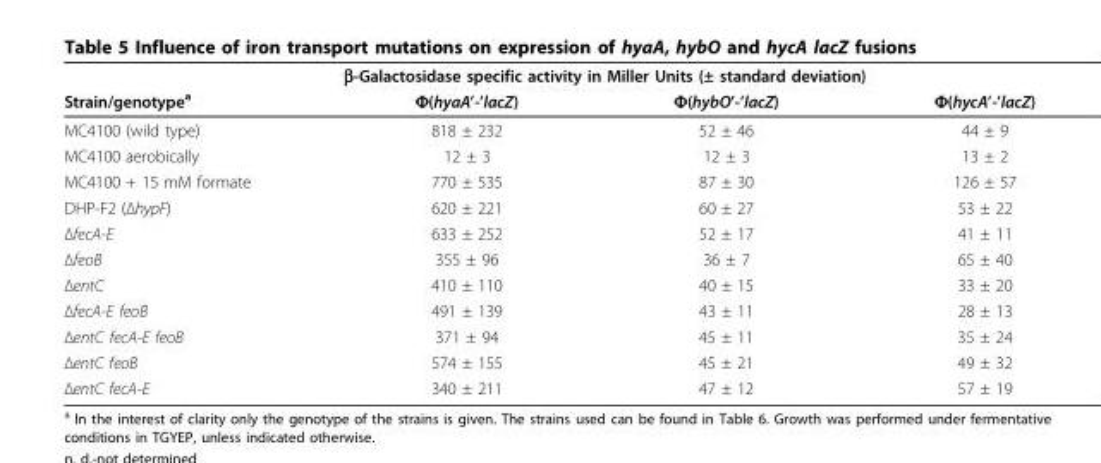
<table><thead><tr><td rowspan="2">Strain/genotype<sup>a</sup></td><td colspan="3">β-Galactosidase specific activity in Miller Units (± standard deviation)</td></tr><tr><td>Φ(hyaA’-’lacZ)</td><td>Φ(hybO’-’lacZ)</td><td>Φ(hycA’-’lacZ)</td></tr></thead><tbody><tr><td>MC4100 (wild type)</td><td>818 ± 232</td><td>52 ± 46</td><td>44 ± 9</td></tr><tr><td>MC4100 aerobically</td><td>12 ± 3</td><td>12 ± 3</td><td>13 ± 2</td></tr><tr><td>MC4100 + 15 mM formate</td><td>770 ± 535</td><td>87 ± 30</td><td>126 ± 57</td></tr><tr><td>DHP-F2 (ΔhypF)</td><td>620 ± 221</td><td>60 ± 27</td><td>53 ± 22</td></tr><tr><td>ΔfecA-E</td><td>633 ± 252</td><td>52 ± 17</td><td>41 ± 11</td></tr><tr><td>ΔfeoB</td><td>355 ± 96</td><td>36 ± 7</td><td>65 ± 40</td></tr><tr><td>ΔentC</td><td>410 ± 110</td><td>40 ± 15</td><td>33 ± 20</td></tr><tr><td>ΔfecA-E feoB</td><td>491 ± 139</td><td>43 ± 11</td><td>28 ± 13</td></tr><tr><td>ΔentC fecA-E feoB</td><td>371 ± 94</td><td>45 ± 11</td><td>35 ± 24</td></tr><tr><td>ΔentC feoB</td><td>574 ± 155</td><td>45 ± 21</td><td>49 ± 32</td></tr><tr><td>ΔentC fecA-E</td><td>340 ± 211</td><td>47 ± 12</td><td>57 ± 19</td></tr></tbody></table>